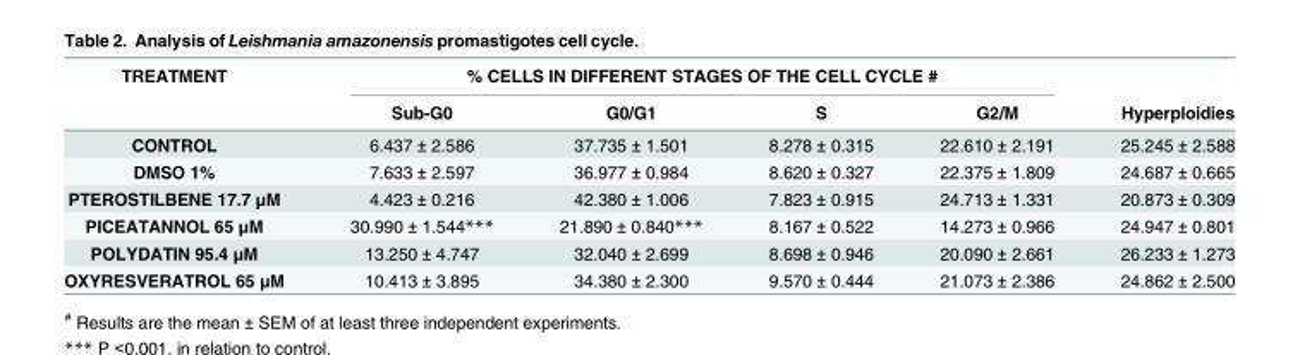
<table><thead><tr><td rowspan="2">TREATMENT</td><td colspan="4">% CELLS IN DIFFERENT STAGES OF THE CELL CYCLE #</td><td rowspan="2">Hyperploidies</td></tr><tr><td>Sub-G0</td><td>G0/G1</td><td>S</td><td>G2/M</td></tr></thead><tbody><tr><td>CONTROL</td><td>6.437 ± 2.586</td><td>37.735 ± 1.501</td><td>8.278 ± 0.315</td><td>22.610 ± 2.191</td><td>25.245 ± 2.588</td></tr><tr><td>DMSO 1%</td><td>7.633 ± 2.597</td><td>36.977 ± 0.984</td><td>8.620 ± 0.327</td><td>22.375 ± 1.809</td><td>24.687 ± 0.665</td></tr><tr><td>PTEROSTILBENE 17.7 μM</td><td>4.423 ± 0.216</td><td>42.380 ± 1.006</td><td>7.823 ± 0.915</td><td>24.713 ± 1.331</td><td>20.873 ± 0.309</td></tr><tr><td>PICEATANNOL 65 μM</td><td>30.990 ± 1.544***</td><td>21.890 ± 0.840***</td><td>8.167 ± 0.522</td><td>14.273 ± 0.966</td><td>24.947 ± 0.801</td></tr><tr><td>POLYDATIN 95.4 μM</td><td>13.250 ± 4.747</td><td>32.040 ± 2.699</td><td>8.698 ± 0.946</td><td>20.090 ± 2.661</td><td>26.233 ± 1.273</td></tr><tr><td>OXYRESVERATROL 65 μM</td><td>10.413 ± 3.895</td><td>34.380 ± 2.300</td><td>9.570 ± 0.444</td><td>21.073 ± 2.386</td><td>24.862 ± 2.500</td></tr></tbody></table>